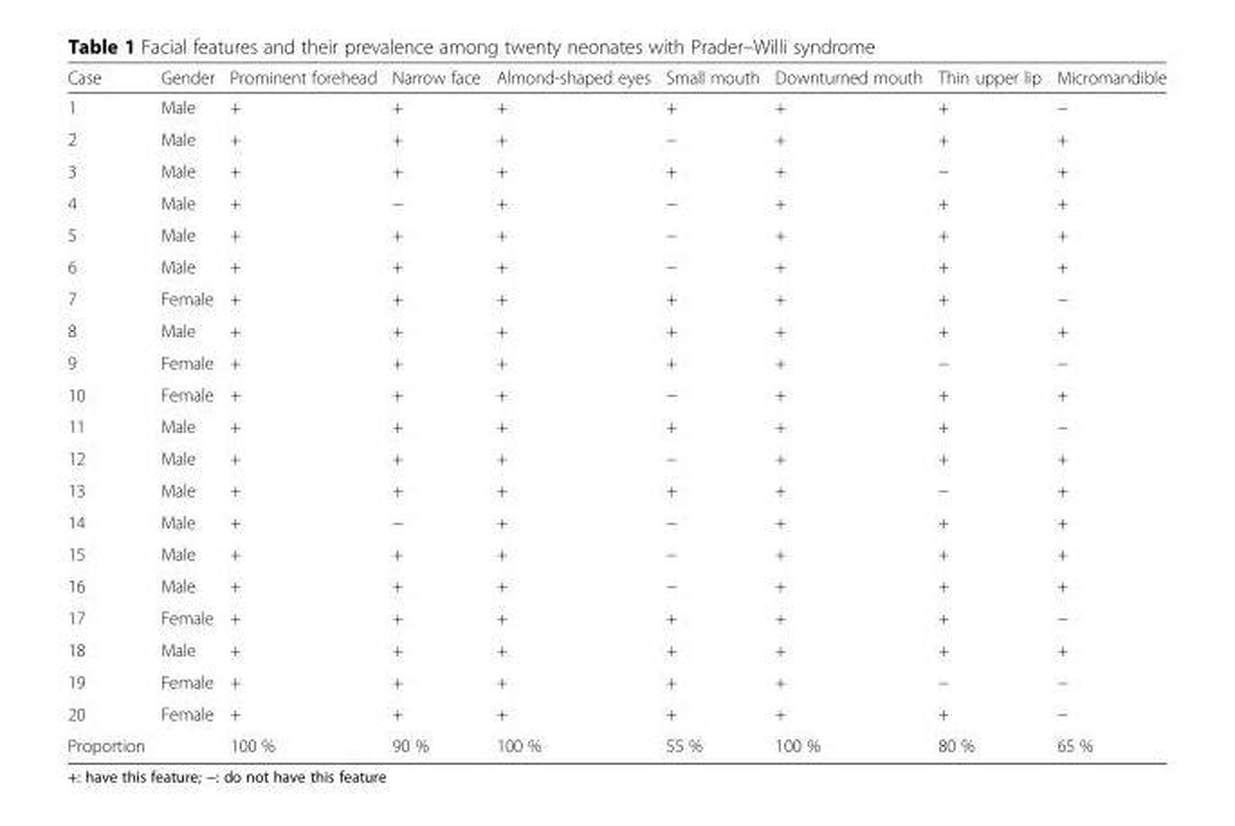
<table><thead><tr><td>Case</td><td>Gender</td><td>Prominent forehead</td><td>Narrow face</td><td>Almond-shaped eyes</td><td>Small mouth</td><td>Downturned mouth</td><td>Thin upper lip</td><td>Micromandible</td></tr></thead><tbody><tr><td>1</td><td>Male</td><td>+</td><td>+</td><td>+</td><td>+</td><td>+</td><td>+</td><td>−</td></tr><tr><td>2</td><td>Male</td><td>+</td><td>+</td><td>+</td><td>−</td><td>+</td><td>+</td><td>+</td></tr><tr><td>3</td><td>Male</td><td>+</td><td>+</td><td>+</td><td>+</td><td>+</td><td>−</td><td>+</td></tr><tr><td>4</td><td>Male</td><td>+</td><td>−</td><td>+</td><td>−</td><td>+</td><td>+</td><td>+</td></tr><tr><td>5</td><td>Male</td><td>+</td><td>+</td><td>+</td><td>−</td><td>+</td><td>+</td><td>+</td></tr><tr><td>6</td><td>Male</td><td>+</td><td>+</td><td>+</td><td>−</td><td>+</td><td>+</td><td>+</td></tr><tr><td>7</td><td>Female</td><td>+</td><td>+</td><td>+</td><td>+</td><td>+</td><td>+</td><td>−</td></tr><tr><td>8</td><td>Male</td><td>+</td><td>+</td><td>+</td><td>+</td><td>+</td><td>+</td><td>+</td></tr><tr><td>9</td><td>Female</td><td>+</td><td>+</td><td>+</td><td>+</td><td>+</td><td>−</td><td>−</td></tr><tr><td>10</td><td>Female</td><td>+</td><td>+</td><td>+</td><td>−</td><td>+</td><td>+</td><td>+</td></tr><tr><td>11</td><td>Male</td><td>+</td><td>+</td><td>+</td><td>+</td><td>+</td><td>+</td><td>−</td></tr><tr><td>12</td><td>Male</td><td>+</td><td>+</td><td>+</td><td>−</td><td>+</td><td>+</td><td>+</td></tr><tr><td>13</td><td>Male</td><td>+</td><td>+</td><td>+</td><td>+</td><td>+</td><td>−</td><td>+</td></tr><tr><td>14</td><td>Male</td><td>+</td><td>−</td><td>+</td><td>−</td><td>+</td><td>+</td><td>+</td></tr><tr><td>15</td><td>Male</td><td>+</td><td>+</td><td>+</td><td>−</td><td>+</td><td>+</td><td>+</td></tr><tr><td>16</td><td>Male</td><td>+</td><td>+</td><td>+</td><td>−</td><td>+</td><td>+</td><td>+</td></tr><tr><td>17</td><td>Female</td><td>+</td><td>+</td><td>+</td><td>+</td><td>+</td><td>+</td><td>−</td></tr><tr><td>18</td><td>Male</td><td>+</td><td>+</td><td>+</td><td>+</td><td>+</td><td>+</td><td>+</td></tr><tr><td>19</td><td>Female</td><td>+</td><td>+</td><td>+</td><td>+</td><td>+</td><td>−</td><td>−</td></tr><tr><td>20</td><td>Female</td><td>+</td><td>+</td><td>+</td><td>+</td><td>+</td><td>+</td><td>−</td></tr><tr><td>Proportion</td><td></td><td>100 %</td><td>90 %</td><td>100 %</td><td>55 %</td><td>100 %</td><td>80 %</td><td>65 %</td></tr></tbody></table>